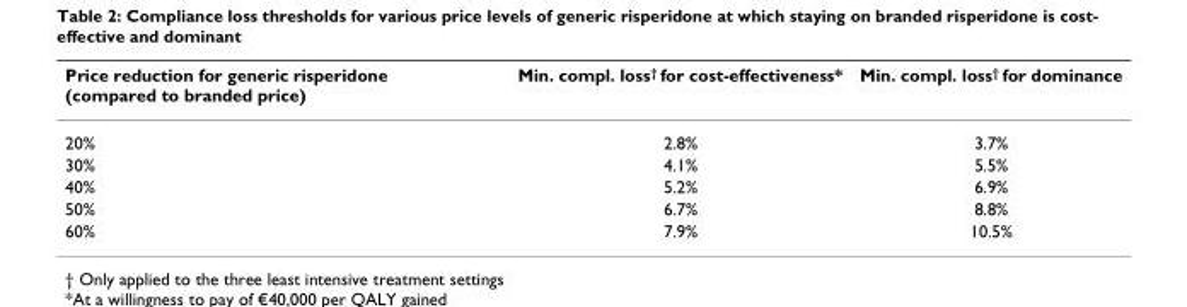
<table><thead><tr><td>Price reduction for generic risperidone (compared to branded price)</td><td>Min. compl. loss<sup>†</sup> for cost-effectiveness*</td><td>Min. compl. loss<sup>†</sup> for dominance</td></tr></thead><tbody><tr><td>20%</td><td>2.8%</td><td>3.7%</td></tr><tr><td>30%</td><td>4.1%</td><td>5.5%</td></tr><tr><td>40%</td><td>5.2%</td><td>6.9%</td></tr><tr><td>50%</td><td>6.7%</td><td>8.8%</td></tr><tr><td>60%</td><td>7.9%</td><td>10.5%</td></tr></tbody></table>